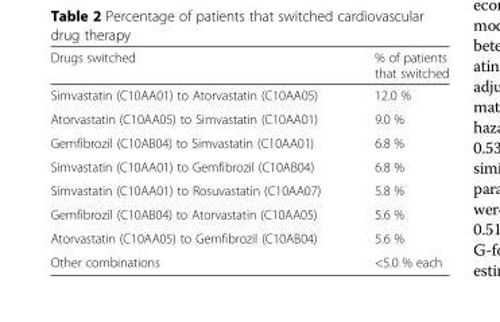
<table><thead><tr><td>Drugs switched</td><td>% of patients that switched</td></tr></thead><tbody><tr><td>Simvastatin (C10AA01) to Atorvastatin (C10AA05)</td><td>12.0 %</td></tr><tr><td>Atorvastatin (C10AA05) to Simvastatin (C10AA01)</td><td>9.0 %</td></tr><tr><td>Gemfibrozil (C10AB04) to Simvastatin (C10AA01)</td><td>6.8 %</td></tr><tr><td>Simvastatin (C10AA01) to Gemfibrozil (C10AB04)</td><td>6.8 %</td></tr><tr><td>Simvastatin (C10AA01) to Rosuvastatin (C10AA07)</td><td>5.8 %</td></tr><tr><td>Gemfibrozil (C10AB04) to Atorvastatin (C10AA05)</td><td>5.6 %</td></tr><tr><td>Atorvastatin (C10AA05) to Gemfibrozil (C10AB04)</td><td>5.6 %</td></tr><tr><td>Other combinations</td><td>&lt;5.0 % each</td></tr></tbody></table>